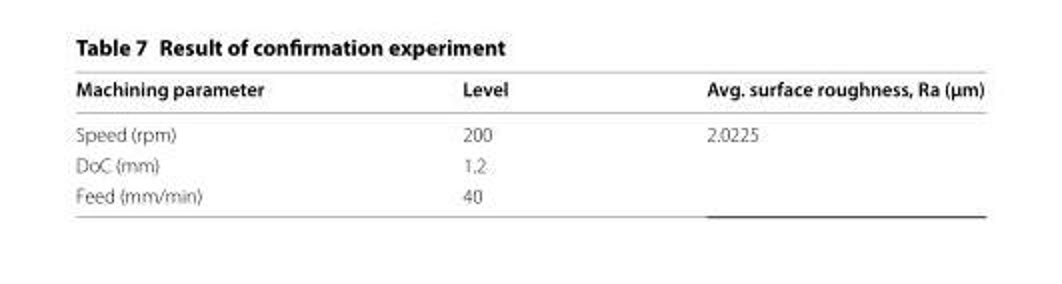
<table><thead><tr><td>Machining parameter</td><td>Level</td><td>Avg. surface roughness, Ra (μm)</td></tr></thead><tbody><tr><td>Speed (rpm)</td><td>200</td><td rowspan="3">2.0225</td></tr><tr><td>DoC (mm)</td><td>1.2</td></tr><tr><td>Feed (mm/min)</td><td>40</td></tr></tbody></table>